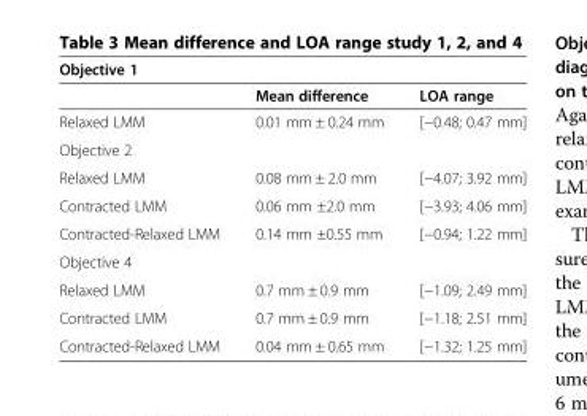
<table><thead><tr><td colspan="3">Objective 1</td></tr><tr><td></td><td>Mean difference</td><td>LOA range</td></tr></thead><tbody><tr><td>Relaxed LMM</td><td>0.01 mm ± 0.24 mm</td><td>[−0.48; 0.47 mm]</td></tr><tr><td colspan="3">Objective 2</td></tr><tr><td>Relaxed LMM</td><td>0.08 mm ± 2.0 mm</td><td>[−4.07; 3.92 mm]</td></tr><tr><td>Contracted LMM</td><td>0.06 mm ±2.0 mm</td><td>[−3.93; 4.06 mm]</td></tr><tr><td>Contracted-Relaxed LMM</td><td>0.14 mm ±0.55 mm</td><td>[−0.94; 1.22 mm]</td></tr><tr><td colspan="3">Objective 4</td></tr><tr><td>Relaxed LMM</td><td>0.7 mm ± 0.9 mm</td><td>[−1.09; 2.49 mm]</td></tr><tr><td>Contracted LMM</td><td>0.7 mm ± 0.9 mm</td><td>[−1.18; 2.51 mm]</td></tr><tr><td>Contracted-Relaxed LMM</td><td>0.04 mm ± 0.65 mm</td><td>[−1.32; 1.25 mm]</td></tr></tbody></table>